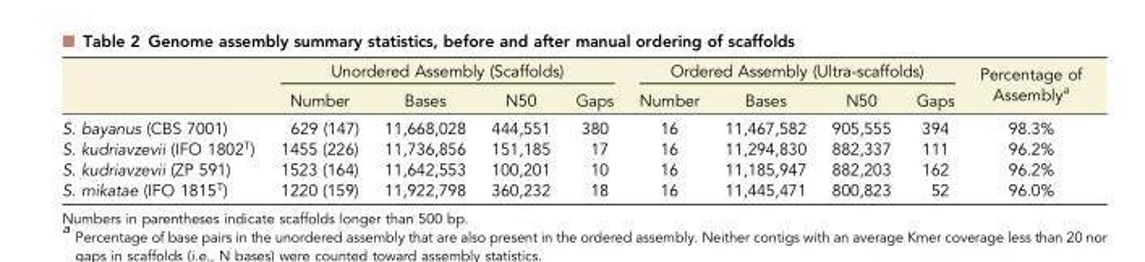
<table><thead><tr><td rowspan="2"></td><td colspan="4">Unordered Assembly (Scaffolds)</td><td colspan="4">Ordered Assembly (Ultra-scaffolds)</td><td rowspan="2">Percentage of Assemblya</td></tr><tr><td>Number</td><td>Bases</td><td>N50</td><td>Gaps</td><td>Number</td><td>Bases</td><td>N50</td><td>Gaps</td></tr></thead><tbody><tr><td>S. bayanus (CBS 7001)</td><td>629 (147)</td><td>11,668,028</td><td>444,551</td><td>380</td><td>16</td><td>11,467,582</td><td>905,555</td><td>394</td><td>98.3%</td></tr><tr><td>S. kudriavzevii (IFO 1802<sup>T</sup>)</td><td>1455 (226)</td><td>11,736,856</td><td>151,185</td><td>17</td><td>16</td><td>11,294,830</td><td>882,337</td><td>111</td><td>96.2%</td></tr><tr><td>S. kudriavzevii (ZP 591)</td><td>1523 (164)</td><td>11,642,553</td><td>100,201</td><td>10</td><td>16</td><td>11,185,947</td><td>882,203</td><td>162</td><td>96.2%</td></tr><tr><td>S. mikatae (IFO 1815<sup>T</sup>)</td><td>1220 (159)</td><td>11,922,798</td><td>360,232</td><td>18</td><td>16</td><td>11,445,471</td><td>800,823</td><td>52</td><td>96.0%</td></tr></tbody></table>